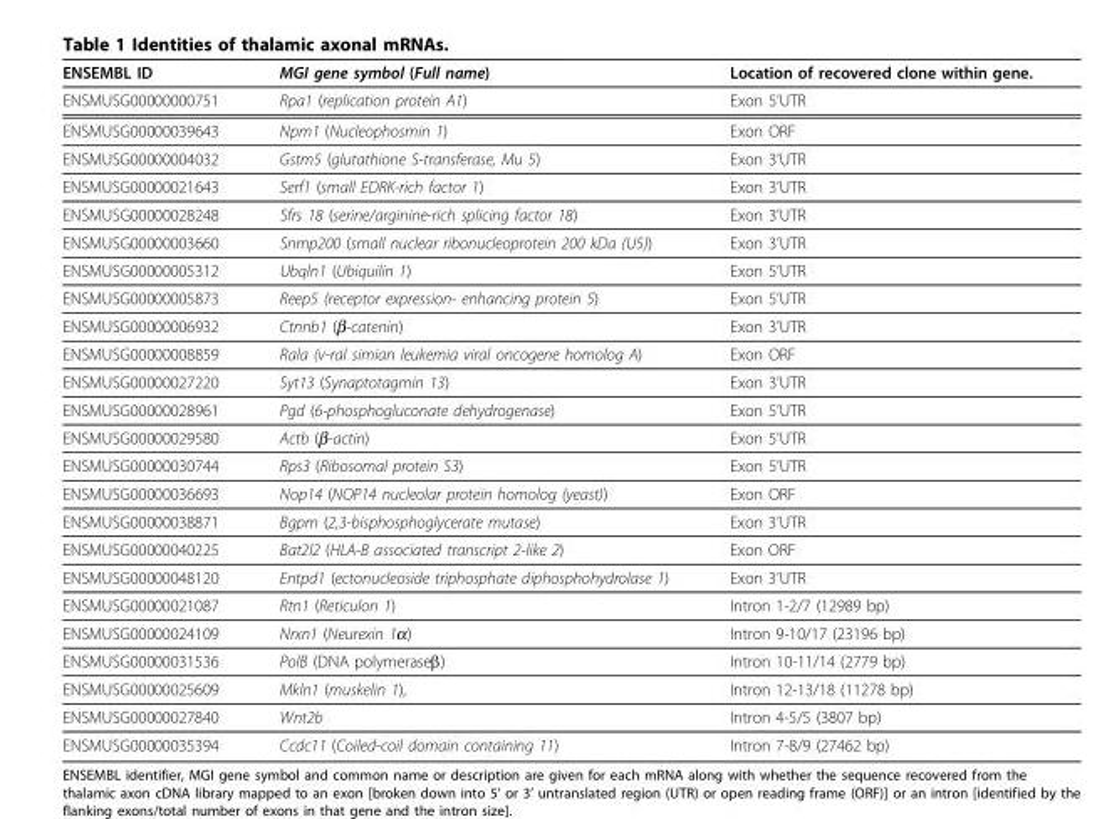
<table><thead><tr><td>ENSEMBL ID</td><td>MGI gene symbol (Full name)</td><td>Location of recovered clone within gene.</td></tr></thead><tbody><tr><td>ENSMUSG00000000751</td><td>Rpa1 (replication protein A1)</td><td>Exon 5’UTR</td></tr><tr><td>ENSMUSG00000039643</td><td>Npm1 (Nucleophosmin 1)</td><td>Exon ORF</td></tr><tr><td>ENSMUSG00000004032</td><td>Gstm5 (glutathione S-transferase, Mu 5)</td><td>Exon 3’UTR</td></tr><tr><td>ENSMUSG00000021643</td><td>Serf1 (small EDRK-rich factor 1)</td><td>Exon 3’UTR</td></tr><tr><td>ENSMUSG00000028248</td><td>Sfrs 18 (serine/arginine-rich splicing factor 18)</td><td>Exon 3’UTR</td></tr><tr><td>ENSMUSG00000003660</td><td>Snrnp200 (small nuclear ribonucleoprotein 200 kDa (U5))</td><td>Exon 3’UTR</td></tr><tr><td>ENSMUSG00000005312</td><td>Ubqln1 (Ubiquilin 1)</td><td>Exon 5’UTR</td></tr><tr><td>ENSMUSG00000005873</td><td>Reep5 (receptor expression- enhancing protein 5)</td><td>Exon 5’UTR</td></tr><tr><td>ENSMUSG00000006932</td><td>Ctnnb1 (β-catenin)</td><td>Exon 3’UTR</td></tr><tr><td>ENSMUSG00000008859</td><td>Rala (v-ral simian leukemia viral oncogene homolog A)</td><td>Exon ORF</td></tr><tr><td>ENSMUSG00000027220</td><td>Syt13 (Synaptotagmin 13)</td><td>Exon 3’UTR</td></tr><tr><td>ENSMUSG00000028961</td><td>Pgd (6-phosphogluconate dehydrogenase)</td><td>Exon 5’UTR</td></tr><tr><td>ENSMUSG00000029580</td><td>Actb (β-actin)</td><td>Exon 5’UTR</td></tr><tr><td>ENSMUSG00000030744</td><td>Rps3 (Ribosomal protein S3)</td><td>Exon 5’UTR</td></tr><tr><td>ENSMUSG00000036693</td><td>Nop14 (NOP14 nucleolar protein homolog (yeast))</td><td>Exon ORF</td></tr><tr><td>ENSMUSG00000038871</td><td>Bgpm (2,3-bisphosphoglycerate mutase)</td><td>Exon 3’UTR</td></tr><tr><td>ENSMUSG00000040225</td><td>Bat2l2 (HLA-B associated transcript 2-like 2)</td><td>Exon ORF</td></tr><tr><td>ENSMUSG00000048120</td><td>Entpd1 (ectonucleoside triphosphate diphosphohydrolase 1)</td><td>Exon 3’UTR</td></tr><tr><td>ENSMUSG00000021087</td><td>Rtn1 (Reticulon 1)</td><td>Intron 1-2/7 (12989 bp)</td></tr><tr><td>ENSMUSG00000024109</td><td>Nrxn1 (Neurexin 1α)</td><td>Intron 9-10/17 (23196 bp)</td></tr><tr><td>ENSMUSG00000031536</td><td>PolB (DNA polymeraseβ)</td><td>Intron 10-11/14 (2779 bp)</td></tr><tr><td>ENSMUSG00000025609</td><td>Mkln1 (muskelin 1),</td><td>Intron 12-13/18 (11278 bp)</td></tr><tr><td>ENSMUSG00000027840</td><td>Wnt2b</td><td>Intron 4-5/5 (3807 bp)</td></tr><tr><td>ENSMUSG00000035394</td><td>Ccdc11 (Coiled-coil domain containing 11)</td><td>Intron 7-8/9 (27462 bp)</td></tr></tbody></table>